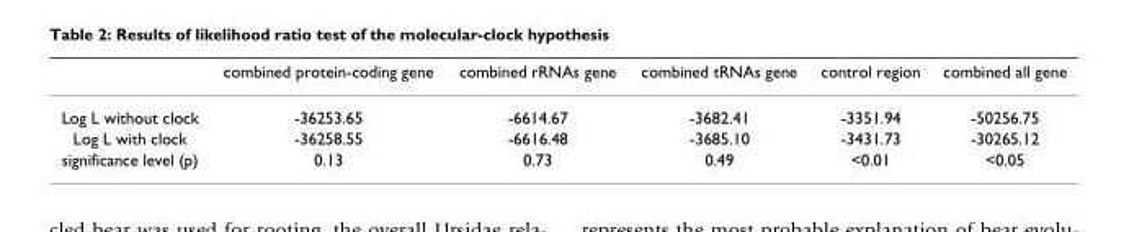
<table><thead><tr><td></td><td>combined protein-coding gene</td><td>combined rRNAs gene</td><td>combined tRNAs gene</td><td>control region</td><td>combined all gene</td></tr></thead><tbody><tr><td>Log L without clock</td><td>-36253.65</td><td>-6614.67</td><td>-3682.41</td><td>-3351.94</td><td>-50256.75</td></tr><tr><td>Log L with clock</td><td>-36258.55</td><td>-6616.48</td><td>-3685.10</td><td>-3431.73</td><td>-30265.12</td></tr><tr><td>significance level (p)</td><td>0.13</td><td>0.73</td><td>0.49</td><td>&lt;0.01</td><td>&lt;0.05</td></tr></tbody></table>